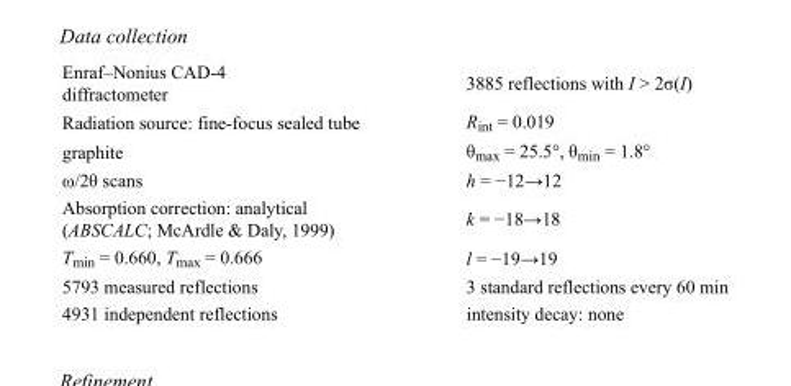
<table><tbody><tr><td>Enraf–Nonius CAD-4 diffractometer</td><td>3885 reflections with I &gt; 2σ(I)</td></tr><tr><td>Radiation source: fine-focus sealed tube</td><td>R<sub>int</sub> = 0.019</td></tr><tr><td>graphite</td><td>θ<sub>max</sub> = 25.5°, θ<sub>min</sub> = 1.8°</td></tr><tr><td>ω/2θ scans</td><td>h = −12→12</td></tr><tr><td>Absorption correction: analytical (ABSCALC; McArdle &amp; Daly, 1999)</td><td>k = −18→18</td></tr><tr><td>T<sub>min</sub> = 0.660, T<sub>max</sub> = 0.666</td><td>l = −19→19</td></tr><tr><td>5793 measured reflections</td><td>3 standard reflections every 60 min</td></tr><tr><td>4931 independent reflections</td><td>intensity decay: none</td></tr></tbody></table>